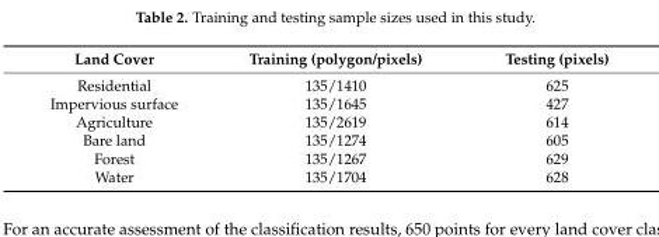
<table><thead><tr><td>Land Cover</td><td>Training (polygon/pixels)</td><td>Testing (pixels)</td></tr></thead><tbody><tr><td>Residential</td><td>135/1410</td><td>625</td></tr><tr><td>Impervious surface</td><td>135/1645</td><td>427</td></tr><tr><td>Agriculture</td><td>135/2619</td><td>614</td></tr><tr><td>Bare land</td><td>135/1274</td><td>605</td></tr><tr><td>Forest</td><td>135/1267</td><td>629</td></tr><tr><td>Water</td><td>135/1704</td><td>628</td></tr></tbody></table>